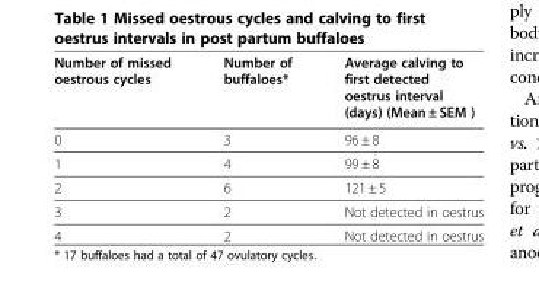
<table><thead><tr><td>Number of missed oestrous cycles</td><td>Number of buffaloes*</td><td>Average calving to first detected oestrus interval (days) (Mean ± SEM )</td></tr></thead><tbody><tr><td>0</td><td>3</td><td>96 ± 8</td></tr><tr><td>1</td><td>4</td><td>99 ± 8</td></tr><tr><td>2</td><td>6</td><td>121 ± 5</td></tr><tr><td>3</td><td>2</td><td>Not detected in oestrus</td></tr><tr><td>4</td><td>2</td><td>Not detected in oestrus</td></tr></tbody></table>